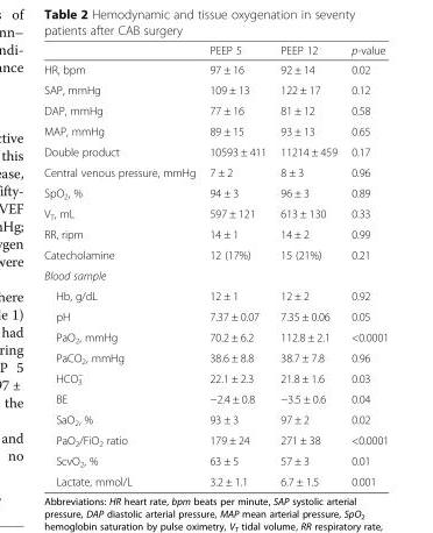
<table><thead><tr><td></td><td>PEEP 5</td><td>PEEP 12</td><td>p-value</td></tr></thead><tbody><tr><td>HR, bpm</td><td>97 ± 16</td><td>92 ± 14</td><td>0.02</td></tr><tr><td>SAP, mmHg</td><td>109 ± 13</td><td>122 ± 17</td><td>0.12</td></tr><tr><td>DAP, mmHg</td><td>77 ± 16</td><td>81 ± 12</td><td>0.58</td></tr><tr><td>MAP, mmHg</td><td>89 ± 15</td><td>93 ± 13</td><td>0.65</td></tr><tr><td>Double product</td><td>10593 ± 411</td><td>11214 ± 459</td><td>0.17</td></tr><tr><td>Central venous pressure, mmHg</td><td>7 ± 2</td><td>8 ± 3</td><td>0.96</td></tr><tr><td>SpO<sub>2</sub>, %</td><td>94 ± 3</td><td>96 ± 3</td><td>0.89</td></tr><tr><td>V<sub>T</sub>, mL</td><td>597 ± 121</td><td>613 ± 130</td><td>0.33</td></tr><tr><td>RR, ripm</td><td>14 ± 1</td><td>14 ± 2</td><td>0.99</td></tr><tr><td>Catecholamine</td><td>12 (17%)</td><td>15 (21%)</td><td>0.21</td></tr><tr><td colspan="4">Blood sample</td></tr><tr><td>Hb, g/dL</td><td>12 ± 1</td><td>12 ± 2</td><td>0.92</td></tr><tr><td>pH</td><td>7.37 ± 0.07</td><td>7.35 ± 0.06</td><td>0.05</td></tr><tr><td>PaO<sub>2</sub>, mmHg</td><td>70.2 ± 6.2</td><td>112.8 ± 2.1</td><td>&lt;0.0001</td></tr><tr><td>PaCO<sub>2</sub>, mmHg</td><td>38.6 ± 8.8</td><td>38.7 ± 7.8</td><td>0.96</td></tr><tr><td>HCO<sub>3</sub> <sup>−</sup></td><td>22.1 ± 2.3</td><td>21.8 ± 1.6</td><td>0.03</td></tr><tr><td>BE</td><td>−2.4 ± 0.8</td><td>−3.5 ± 0.6</td><td>0.04</td></tr><tr><td>SaO<sub>2</sub>, %</td><td>93 ± 3</td><td>97 ± 2</td><td>0.02</td></tr><tr><td>PaO<sub>2</sub>/FiO<sub>2</sub> ratio</td><td>179 ± 24</td><td>271 ± 38</td><td>&lt;0.0001</td></tr><tr><td>ScvO<sub>2</sub>, %</td><td>63 ± 5</td><td>57 ± 3</td><td>0.01</td></tr><tr><td>Lactate, mmol/L</td><td>3.2 ± 1.1</td><td>6.7 ± 1.5</td><td>0.001</td></tr></tbody></table>